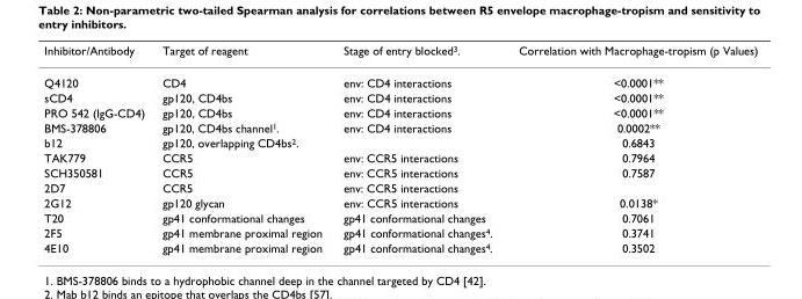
<table><thead><tr><td>Inhibitor/Antibody</td><td>Target of reagent</td><td>Stage of entry blocked<sup>3</sup>.</td><td>Correlation with Macrophage-tropism (p Values)</td></tr></thead><tbody><tr><td>Q4120</td><td>CD4</td><td>env: CD4 interactions</td><td>&lt;0.0001**</td></tr><tr><td>sCD4</td><td>gp120, CD4bs</td><td>env: CD4 interactions</td><td>&lt;0.0001**</td></tr><tr><td>PRO 542 (IgG-CD4)</td><td>gp120, CD4bs</td><td>env: CD4 interactions</td><td>&lt;0.0001**</td></tr><tr><td>BMS-378806</td><td>gp120, CD4bs channel<sup>1</sup>.</td><td>env: CD4 interactions</td><td>0.0002**</td></tr><tr><td>b12</td><td>gp120, overlapping CD4bs<sup>2</sup>.</td><td></td><td>0.6843</td></tr><tr><td>TAK779</td><td>CCR5</td><td>env: CCR5 interactions</td><td>0.7964</td></tr><tr><td>SCH350581</td><td>CCR5</td><td>env: CCR5 interactions</td><td>0.7587</td></tr><tr><td>2D7</td><td>CCR5</td><td>env: CCR5 interactions</td><td></td></tr><tr><td>2G12</td><td>gp120 glycan</td><td>env: CCR5 interactions</td><td>0.0138*</td></tr><tr><td>T20</td><td>gp41 conformational changes</td><td>gp41 conformational changes</td><td>0.7061</td></tr><tr><td>2F5</td><td>gp41 membrane proximal region</td><td>gp41 conformational changes<sup>4</sup>.</td><td>0.3741</td></tr><tr><td>4E10</td><td>gp41 membrane proximal region</td><td>gp41 conformational changes<sup>4</sup>.</td><td>0.3502</td></tr></tbody></table>